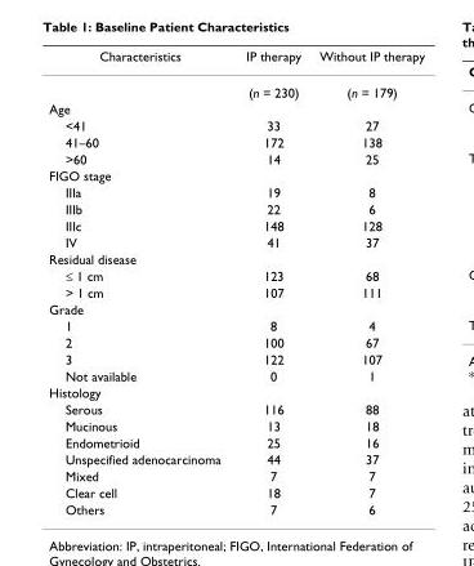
<table><thead><tr><td>Characteristics</td><td>IP therapy</td><td>Without IP therapy</td></tr></thead><tbody><tr><td></td><td>(n = 230)</td><td>(n = 179)</td></tr><tr><td colspan="3">Age</td></tr><tr><td>&lt;41</td><td>33</td><td>27</td></tr><tr><td>41–60</td><td>172</td><td>138</td></tr><tr><td>&gt;60</td><td>14</td><td>25</td></tr><tr><td colspan="3">FIGO stage</td></tr><tr><td>IIIa</td><td>19</td><td>8</td></tr><tr><td>IIIb</td><td>22</td><td>6</td></tr><tr><td>IIIc</td><td>148</td><td>128</td></tr><tr><td>IV</td><td>41</td><td>37</td></tr><tr><td colspan="3">Residual disease</td></tr><tr><td>≤ 1 cm</td><td>123</td><td>68</td></tr><tr><td>&gt; 1 cm</td><td>107</td><td>111</td></tr><tr><td colspan="3">Grade</td></tr><tr><td>1</td><td>8</td><td>4</td></tr><tr><td>2</td><td>100</td><td>67</td></tr><tr><td>3</td><td>122</td><td>107</td></tr><tr><td>Not available</td><td>0</td><td>1</td></tr><tr><td colspan="3">Histology</td></tr><tr><td>Serous</td><td>116</td><td>88</td></tr><tr><td>Mucinous</td><td>13</td><td>18</td></tr><tr><td>Endometrioid</td><td>25</td><td>16</td></tr><tr><td>Unspecified adenocarcinoma</td><td>44</td><td>37</td></tr><tr><td>Mixed</td><td>7</td><td>7</td></tr><tr><td>Clear cell</td><td>18</td><td>7</td></tr><tr><td>Others</td><td>7</td><td>6</td></tr></tbody></table>